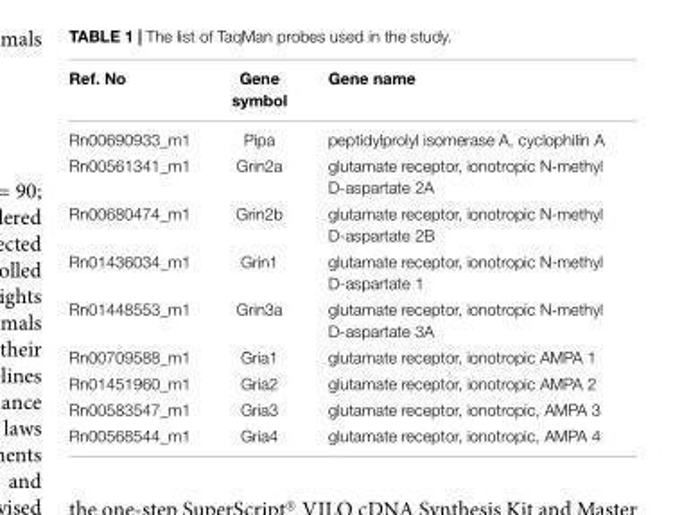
<table><thead><tr><td>Ref. No</td><td>Gene symbol</td><td>Gene name</td></tr></thead><tbody><tr><td>Rn00690933_m1</td><td>Pipa</td><td>peptidylprolyl isomerase A, cyclophilin A</td></tr><tr><td>Rn00561341_m1</td><td>Grin2a</td><td>glutamate receptor, ionotropic N-methyl D-aspartate 2A</td></tr><tr><td>Rn00680474_m1</td><td>Grin2b</td><td>glutamate receptor, ionotropic N-methyl D-aspartate 2B</td></tr><tr><td>Rn01436034_m1</td><td>Grin1</td><td>glutamate receptor, ionotropic N-methyl D-aspartate 1</td></tr><tr><td>Rn01448553_m1</td><td>Grin3a</td><td>glutamate receptor, ionotropic N-methyl D-aspartate 3A</td></tr><tr><td>Rn00709588_m1</td><td>Gria1</td><td>glutamate receptor, ionotropic AMPA 1</td></tr><tr><td>Rn01451960_m1</td><td>Gria2</td><td>glutamate receptor, ionotropic AMPA 2</td></tr><tr><td>Rn00583547_m1</td><td>Gria3</td><td>glutamate receptor, ionotropic, AMPA 3</td></tr><tr><td>Rn00568544_m1</td><td>Gria4</td><td>glutamate receptor, ionotropic, AMPA 4</td></tr></tbody></table>